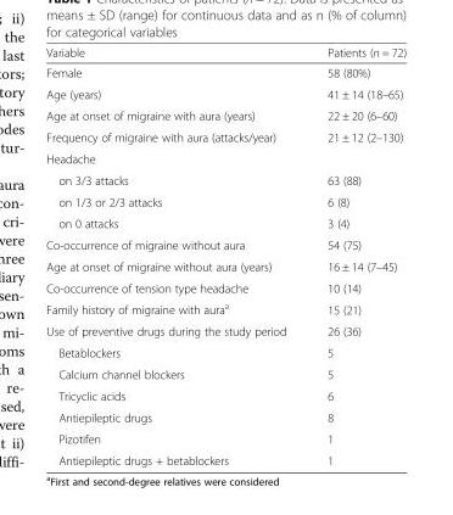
<table><thead><tr><td>Variable</td><td>Patients (n = 72)</td></tr></thead><tbody><tr><td>Female</td><td>58 (80%)</td></tr><tr><td>Age (years)</td><td>41 ± 14 (18–65)</td></tr><tr><td>Age at onset of migraine with aura (years)</td><td>22 ± 20 (6–60)</td></tr><tr><td>Frequency of migraine with aura (attacks/year)</td><td>21 ± 12 (2–130)</td></tr><tr><td colspan="2">Headache</td></tr><tr><td>on 3/3 attacks</td><td>63 (88)</td></tr><tr><td>on 1/3 or 2/3 attacks</td><td>6 (8)</td></tr><tr><td>on 0 attacks</td><td>3 (4)</td></tr><tr><td>Co-occurrence of migraine without aura</td><td>54 (75)</td></tr><tr><td>Age at onset of migraine without aura (years)</td><td>16 ± 14 (7–45)</td></tr><tr><td>Co-occurrence of tension type headache</td><td>10 (14)</td></tr><tr><td>Family history of migraine with aura<sup>a</sup></td><td>15 (21)</td></tr><tr><td>Use of preventive drugs during the study period</td><td>26 (36)</td></tr><tr><td>Betablockers</td><td>5</td></tr><tr><td>Calcium channel blockers</td><td>5</td></tr><tr><td>Tricyclic acids</td><td>6</td></tr><tr><td>Antiepileptic drugs</td><td>8</td></tr><tr><td>Pizotifen</td><td>1</td></tr><tr><td>Antiepileptic drugs + betablockers</td><td>1</td></tr></tbody></table>